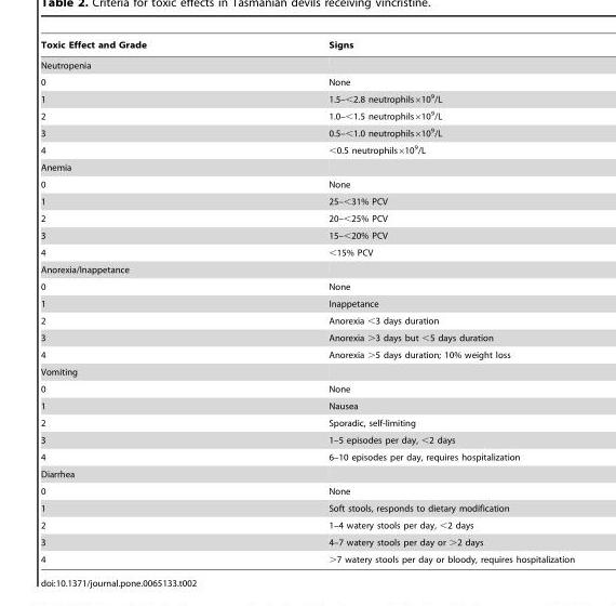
<table><thead><tr><td>Toxic Effect and Grade</td><td>Signs</td></tr></thead><tbody><tr><td colspan="2">Neutropenia</td></tr><tr><td>0</td><td>None</td></tr><tr><td>1</td><td>1.5–&lt;2.8 neutrophils×10<sup>9</sup>/L</td></tr><tr><td>2</td><td>1.0–&lt;1.5 neutrophils×10<sup>9</sup>/L</td></tr><tr><td>3</td><td>0.5–&lt;1.0 neutrophils×10<sup>9</sup>/L</td></tr><tr><td>4</td><td>&lt;0.5 neutrophils×10<sup>9</sup>/L</td></tr><tr><td colspan="2">Anemia</td></tr><tr><td>0</td><td>None</td></tr><tr><td>1</td><td>25–&lt;31% PCV</td></tr><tr><td>2</td><td>20–&lt;25% PCV</td></tr><tr><td>3</td><td>15–&lt;20% PCV</td></tr><tr><td>4</td><td>&lt;15% PCV</td></tr><tr><td colspan="2">Anorexia/Inappetance</td></tr><tr><td>0</td><td>None</td></tr><tr><td>1</td><td>Inappetance</td></tr><tr><td>2</td><td>Anorexia &lt;3 days duration</td></tr><tr><td>3</td><td>Anorexia &gt;3 days but &lt;5 days duration</td></tr><tr><td>4</td><td>Anorexia &gt;5 days duration; 10% weight loss</td></tr><tr><td colspan="2">Vomiting</td></tr><tr><td>0</td><td>None</td></tr><tr><td>1</td><td>Nausea</td></tr><tr><td>2</td><td>Sporadic, self-limiting</td></tr><tr><td>3</td><td>1–5 episodes per day, &lt;2 days</td></tr><tr><td>4</td><td>6–10 episodes per day, requires hospitalization</td></tr><tr><td colspan="2">Diarrhea</td></tr><tr><td>0</td><td>None</td></tr><tr><td>1</td><td>Soft stools, responds to dietary modification</td></tr><tr><td>2</td><td>1–4 watery stools per day, &lt;2 days</td></tr><tr><td>3</td><td>4–7 watery stools per day or &gt;2 days</td></tr><tr><td>4</td><td>&gt;7 watery stools per day or bloody, requires hospitalization</td></tr></tbody></table>